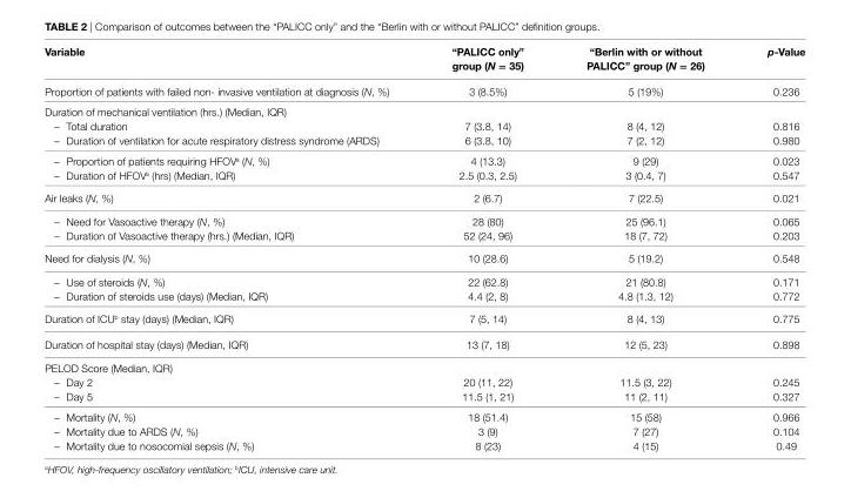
<table><thead><tr><td>Variable</td><td>“Palicc only” group (N = 35)</td><td>“Berlin with or without Palicc” group (N = 26)</td><td>p-Value</td></tr></thead><tbody><tr><td>Proportion of patients with failed non- invasive ventilation at diagnosis (N, %)</td><td>3 (8.5%)</td><td>5 (19%)</td><td>0.236</td></tr><tr><td colspan="4">Duration of mechanical ventilation (hrs.) (Median, IQR)</td></tr><tr><td>– Total duration</td><td>7 (3.8, 14)</td><td>8 (4, 12)</td><td>0.816</td></tr><tr><td>– Duration of ventilation for acute respiratory distress syndrome (ARDS)</td><td>6 (3.8, 10)</td><td>7 (2, 12)</td><td>0.980</td></tr><tr><td>– Proportion of patients requiring HFOV<sup>a</sup> (N, %)</td><td>4 (13.3)</td><td>9 (29)</td><td>0.023</td></tr><tr><td>– Duration of HFOV<sup>a</sup> (hrs) (Median, IQR)</td><td>2.5 (0.3, 2.5)</td><td>3 (0.4, 7)</td><td>0.547</td></tr><tr><td>Air leaks (N, %)</td><td>2 (6.7)</td><td>7 (22.5)</td><td>0.021</td></tr><tr><td>– Need for Vasoactive therapy (N, %)</td><td>28 (80)</td><td>25 (96.1)</td><td>0.065</td></tr><tr><td>– Duration of Vasoactive therapy (hrs.) (Median, IQR)</td><td>52 (24, 96)</td><td>18 (7, 72)</td><td>0.203</td></tr><tr><td>Need for dialysis (N, %)</td><td>10 (28.6)</td><td>5 (19.2)</td><td>0.548</td></tr><tr><td>– Use of steroids (N, %)</td><td>22 (62.8)</td><td>21 (80.8)</td><td>0.171</td></tr><tr><td>– Duration of steroids use (days) (Median, IQR)</td><td>4.4 (2, 8)</td><td>4.8 (1.3, 12)</td><td>0.772</td></tr><tr><td>Duration of ICU<sup>b</sup> stay (days) (Median, IQR)</td><td>7 (5, 14)</td><td>8 (4, 13)</td><td>0.775</td></tr><tr><td>Duration of hospital stay (days) (Median, IQR)</td><td>13 (7, 18)</td><td>12 (5, 23)</td><td>0.898</td></tr><tr><td colspan="4">PELOD Score (Median, IQR)</td></tr><tr><td>– Day 2</td><td>20 (11, 22)</td><td>11.5 (3, 22)</td><td>0.245</td></tr><tr><td>– Day 5</td><td>11.5 (1, 21)</td><td>11 (2, 11)</td><td>0.327</td></tr><tr><td>– Mortality (N, %)</td><td>18 (51.4)</td><td>15 (58)</td><td>0.966</td></tr><tr><td>– Mortality due to ARDS (N, %)</td><td>3 (9)</td><td>7 (27)</td><td>0.104</td></tr><tr><td>– Mortality due to nosocomial sepsis (N, %)</td><td>8 (23)</td><td>4 (15)</td><td>0.49</td></tr></tbody></table>